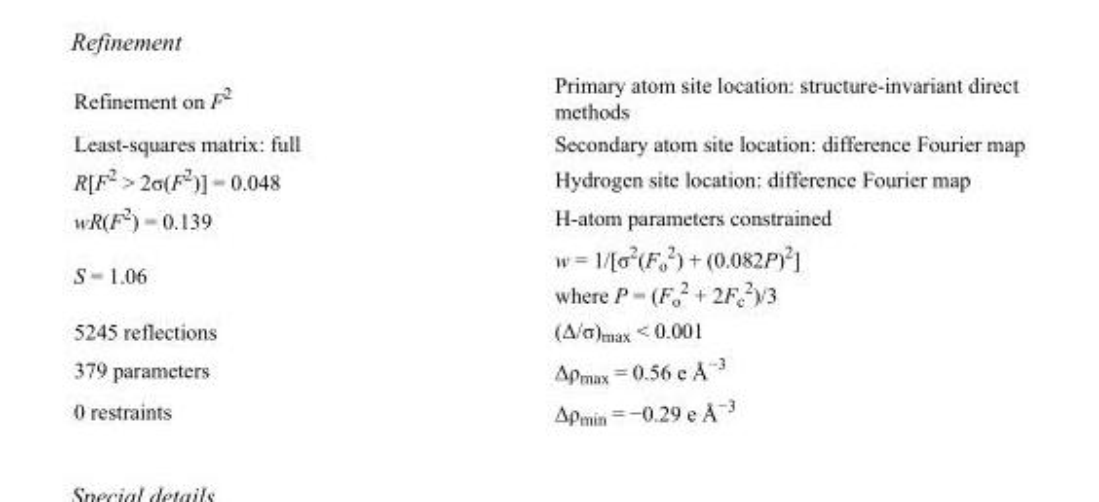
<table><tbody><tr><td>Refinement on F<sup>2</sup></td><td>Primary atom site location: structure-invariant direct methods</td></tr><tr><td>Least-squares matrix: full</td><td>Secondary atom site location: difference Fourier map</td></tr><tr><td>R[F<sup>2</sup> &gt; 2σ(F<sup>2</sup>)] = 0.048</td><td>Hydrogen site location: difference Fourier map</td></tr><tr><td>wR(F<sup>2</sup>) = 0.139</td><td>H-atom parameters constrained</td></tr><tr><td>S = 1.06</td><td>w = 1/[σ<sup>2</sup>(F<sub>o</sub> <sup>2</sup>) + (0.082P)<sup>2</sup>] where P = (F<sub>o</sub> <sup>2</sup> + 2F<sub>c</sub> <sup>2</sup>)/3</td></tr><tr><td>5245 reflections</td><td>(Δ/σ)<sub>max</sub> &lt; 0.001</td></tr><tr><td>379 parameters</td><td>Δρ<sub>max</sub> = 0.56 e Å<sup>−3</sup></td></tr><tr><td>0 restraints</td><td>Δρ<sub>min</sub> = −0.29 e Å<sup>−3</sup></td></tr></tbody></table>